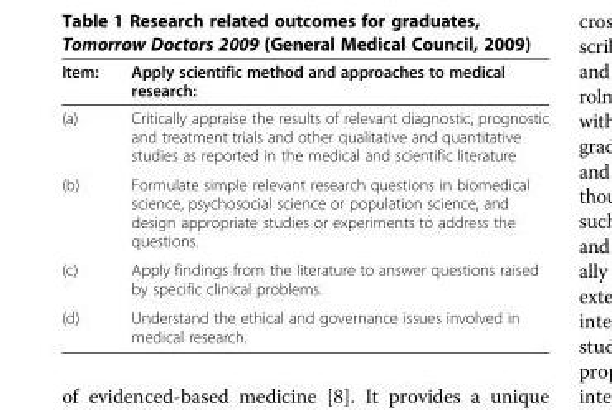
<table><thead><tr><td>Item:</td><td>Apply scientific method and approaches to medical research:</td></tr></thead><tbody><tr><td>(a)</td><td>Critically appraise the results of relevant diagnostic, prognostic and treatment trials and other qualitative and quantitative studies as reported in the medical and scientific literature</td></tr><tr><td>(b)</td><td>Formulate simple relevant research questions in biomedical science, psychosocial science or population science, and design appropriate studies or experiments to address the questions.</td></tr><tr><td>(c)</td><td>Apply findings from the literature to answer questions raised by specific clinical problems.</td></tr><tr><td>(d)</td><td>Understand the ethical and governance issues involved in medical research.</td></tr></tbody></table>